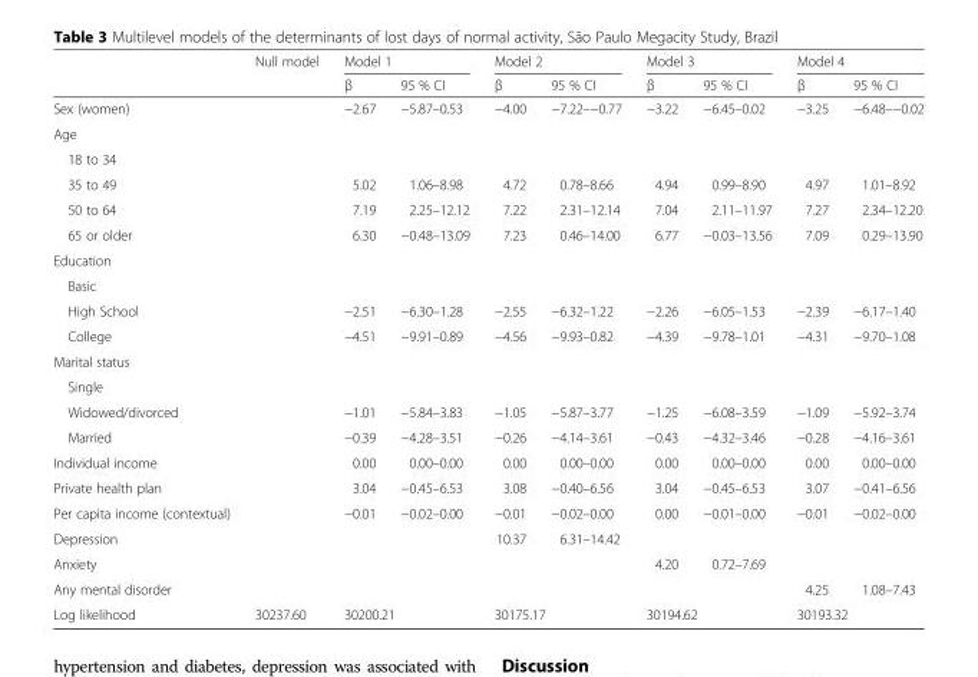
<table><thead><tr><td rowspan="2"></td><td rowspan="2">Null model</td><td colspan="2">Model 1</td><td colspan="2">Model 2</td><td colspan="2">Model 3</td><td colspan="2">Model 4</td></tr><tr><td>β</td><td>95 % CI</td><td>β</td><td>95 % CI</td><td>β</td><td>95 % CI</td><td>β</td><td>95 % CI</td></tr></thead><tbody><tr><td>Sex (women)</td><td></td><td>−2.67</td><td>−5.87–0.53</td><td>−4.00</td><td>−7.22–−0.77</td><td>−3.22</td><td>−6.45–0.02</td><td>−3.25</td><td>−6.48–−0.02</td></tr><tr><td colspan="10">Age</td></tr><tr><td colspan="10">18 to 34</td></tr><tr><td>35 to 49</td><td></td><td>5.02</td><td>1.06–8.98</td><td>4.72</td><td>0.78–8.66</td><td>4.94</td><td>0.99–8.90</td><td>4.97</td><td>1.01–8.92</td></tr><tr><td>50 to 64</td><td></td><td>7.19</td><td>2.25–12.12</td><td>7.22</td><td>2.31–12.14</td><td>7.04</td><td>2.11–11.97</td><td>7.27</td><td>2.34–12.20</td></tr><tr><td>65 or older</td><td></td><td>6.30</td><td>−0.48–13.09</td><td>7.23</td><td>0.46–14.00</td><td>6.77</td><td>−0.03–13.56</td><td>7.09</td><td>0.29–13.90</td></tr><tr><td colspan="10">Education</td></tr><tr><td colspan="10">Basic</td></tr><tr><td>High School</td><td></td><td>−2.51</td><td>−6.30–1.28</td><td>−2.55</td><td>−6.32–1.22</td><td>−2.26</td><td>−6.05–1.53</td><td>−2.39</td><td>−6.17–1.40</td></tr><tr><td>College</td><td></td><td>−4.51</td><td>−9.91–0.89</td><td>−4.56</td><td>−9.93–0.82</td><td>−4.39</td><td>−9.78–1.01</td><td>−4.31</td><td>−9.70–1.08</td></tr><tr><td colspan="10">Marital status</td></tr><tr><td colspan="10">Single</td></tr><tr><td>Widowed/divorced</td><td></td><td>−1.01</td><td>−5.84–3.83</td><td>−1.05</td><td>−5.87–3.77</td><td>−1.25</td><td>−6.08–3.59</td><td>−1.09</td><td>−5.92–3.74</td></tr><tr><td>Married</td><td></td><td>−0.39</td><td>−4.28–3.51</td><td>−0.26</td><td>−4.14–3.61</td><td>−0.43</td><td>−4.32–3.46</td><td>−0.28</td><td>−4.16–3.61</td></tr><tr><td>Individual income</td><td></td><td>0.00</td><td>0.00–0.00</td><td>0.00</td><td>0.00–0.00</td><td>0.00</td><td>0.00–0.00</td><td>0.00</td><td>0.00–0.00</td></tr><tr><td>Private health plan</td><td></td><td>3.04</td><td>−0.45–6.53</td><td>3.08</td><td>−0.40–6.56</td><td>3.04</td><td>−0.45–6.53</td><td>3.07</td><td>−0.41–6.56</td></tr><tr><td>Per capita income (contextual)</td><td></td><td>−0.01</td><td>−0.02–0.00</td><td>−0.01</td><td>−0.02–0.00</td><td>0.00</td><td>−0.01–0.00</td><td>−0.01</td><td>−0.02–0.00</td></tr><tr><td>Depression</td><td></td><td></td><td></td><td>10.37</td><td>6.31–14.42</td><td></td><td></td><td></td><td></td></tr><tr><td>Anxiety</td><td></td><td></td><td></td><td></td><td></td><td>4.20</td><td>0.72–7.69</td><td></td><td></td></tr><tr><td>Any mental disorder</td><td></td><td></td><td></td><td></td><td></td><td></td><td></td><td>4.25</td><td>1.08–7.43</td></tr><tr><td>Log likelihood</td><td>30237.60</td><td colspan="2">30200.21</td><td colspan="2">30175.17</td><td colspan="2">30194.62</td><td colspan="2">30193.32</td></tr></tbody></table>